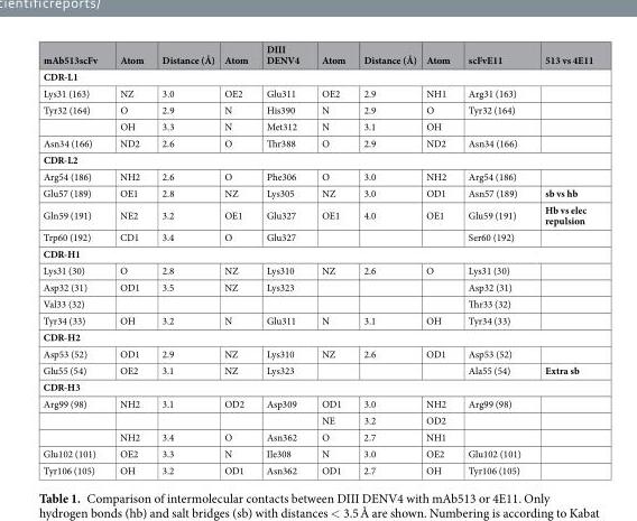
<table><thead><tr><td>mAb513scFv</td><td>Atom</td><td>Distance (Å)</td><td>Atom</td><td>DIII DENV4</td><td>Atom</td><td>Distance (Å)</td><td>Atom</td><td>scFvE11</td><td>513 vs 4E11</td></tr></thead><tbody><tr><td colspan="10">CDR-L1</td></tr><tr><td>Lys31 (163)</td><td>NZ</td><td>3.0</td><td>OE2</td><td>Glu311</td><td>OE2</td><td>2.9</td><td>NH1</td><td>Arg31 (163)</td><td></td></tr><tr><td rowspan="2">Tyr32 (164)</td><td>O</td><td>2.9</td><td>N</td><td>His390</td><td>N</td><td>2.9</td><td>O</td><td>Tyr32 (164)</td><td></td></tr><tr><td>OH</td><td>3.3</td><td>N</td><td>Met312</td><td>N</td><td>3.1</td><td>OH</td><td></td><td></td></tr><tr><td>Asn34 (166)</td><td>ND2</td><td>2.6</td><td>O</td><td>Thr388</td><td>O</td><td>2.9</td><td>ND2</td><td>Asn34 (166)</td><td></td></tr><tr><td colspan="10">CDR-L2</td></tr><tr><td>Arg54 (186)</td><td>NH2</td><td>2.6</td><td>O</td><td>Phe306</td><td>O</td><td>3.0</td><td>NH2</td><td>Arg54 (186)</td><td></td></tr><tr><td>Glu57 (189)</td><td>OE1</td><td>2.8</td><td>NZ</td><td>Lys305</td><td>NZ</td><td>3.0</td><td>OD1</td><td>Asn57 (189)</td><td>sb vs hb</td></tr><tr><td>Gln59 (191)</td><td>NE2</td><td>3.2</td><td>OE1</td><td>Glu327</td><td>OE1</td><td>4.0</td><td>OE1</td><td>Glu59 (191)</td><td>Hb vs elec repulsion</td></tr><tr><td>Trp60 (192)</td><td>CD1</td><td>3.4</td><td>O</td><td>Glu327</td><td></td><td></td><td></td><td>Ser60 (192)</td><td></td></tr><tr><td colspan="10">CDR-H1</td></tr><tr><td>Lys31 (30)</td><td>O</td><td>2.8</td><td>NZ</td><td>Lys310</td><td>NZ</td><td>2.6</td><td>O</td><td>Lys31 (30)</td><td></td></tr><tr><td>Asp32 (31)</td><td>OD1</td><td>3.5</td><td>NZ</td><td>Lys323</td><td></td><td></td><td></td><td>Asp32 (31)</td><td></td></tr><tr><td>Val33 (32)</td><td></td><td></td><td></td><td></td><td></td><td></td><td></td><td>Thr33 (32)</td><td></td></tr><tr><td>Tyr34 (33)</td><td>OH</td><td>3.2</td><td>N</td><td>Glu311</td><td>N</td><td>3.1</td><td>OH</td><td>Tyr34 (33)</td><td></td></tr><tr><td colspan="10">CDR-H2</td></tr><tr><td>Asp53 (52)</td><td>OD1</td><td>2.9</td><td>NZ</td><td>Lys310</td><td>NZ</td><td>2.6</td><td>OD1</td><td>Asp53 (52)</td><td></td></tr><tr><td>Glu55 (54)</td><td>OE2</td><td>3.1</td><td>NZ</td><td>Lys323</td><td></td><td></td><td></td><td>Ala55 (54)</td><td>Extra sb</td></tr><tr><td colspan="10">CDR-H3</td></tr><tr><td rowspan="3">Arg99 (98)</td><td>NH2</td><td>3.1</td><td>OD2</td><td>Asp309</td><td>OD1</td><td>3.0</td><td>NH2</td><td>Arg99 (98)</td><td></td></tr><tr><td></td><td></td><td></td><td></td><td>NE</td><td>3.2</td><td>OD2</td><td></td><td></td></tr><tr><td>NH2</td><td>3.4</td><td>O</td><td>Asn362</td><td>O</td><td>2.7</td><td>NH1</td><td></td><td></td></tr><tr><td>Glu102 (101)</td><td>OE2</td><td>3.3</td><td>N</td><td>Ile308</td><td>N</td><td>3.0</td><td>OE2</td><td>Glu102 (101)</td><td></td></tr><tr><td>Tyr106 (105)</td><td>OH</td><td>3.2</td><td>OD1</td><td>Asn362</td><td>OD1</td><td>2.7</td><td>OH</td><td>Tyr106 (105)</td><td></td></tr></tbody></table>